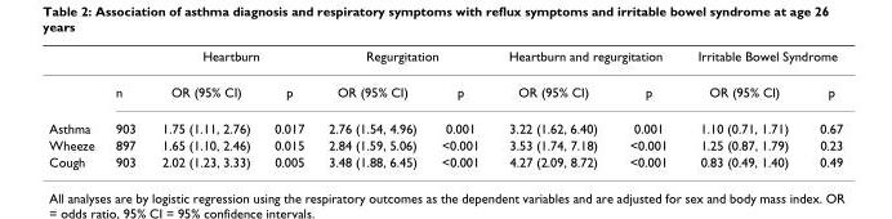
<table><thead><tr><td rowspan="2"></td><td rowspan="2">n</td><td colspan="2">Heartburn</td><td colspan="2">Regurgitation</td><td colspan="2">Heartburn and regurgitation</td><td colspan="2">Irritable Bowel Syndrome</td></tr><tr><td>OR (95% CI)</td><td>p</td><td>OR (95% CI)</td><td>p</td><td>OR (95% CI)</td><td>p</td><td>OR (95% CI)</td><td>p</td></tr></thead><tbody><tr><td>Asthma</td><td>903</td><td>1.75 (1.11, 2.76)</td><td>0.017</td><td>2.76 (1.54, 4.96)</td><td>0.001</td><td>3.22 (1.62, 6.40)</td><td>0.001</td><td>1.10 (0.71, 1.71)</td><td>0.67</td></tr><tr><td>Wheeze</td><td>897</td><td>1.65 (1.10, 2.46)</td><td>0.015</td><td>2.84 (1.59, 5.06)</td><td>&lt;0.001</td><td>3.53 (1.74, 7.18)</td><td>&lt;0.001</td><td>1.25 (0.87, 1.79)</td><td>0.23</td></tr><tr><td>Cough</td><td>903</td><td>2.02 (1.23, 3.33)</td><td>0.005</td><td>3.48 (1.88, 6.45)</td><td>&lt;0.001</td><td>4.27 (2.09, 8.72)</td><td>&lt;0.001</td><td>0.83 (0.49, 1.40)</td><td>0.49</td></tr></tbody></table>